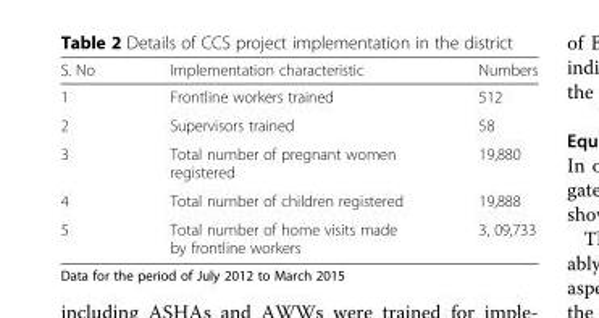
<table><thead><tr><td>S. No</td><td>Implementation characteristic</td><td>Numbers</td></tr></thead><tbody><tr><td>1</td><td>Frontline workers trained</td><td>512</td></tr><tr><td>2</td><td>Supervisors trained</td><td>58</td></tr><tr><td>3</td><td>Total number of pregnant women registered</td><td>19,880</td></tr><tr><td>4</td><td>Total number of children registered</td><td>19,888</td></tr><tr><td>5</td><td>Total number of home visits made by frontline workers</td><td>3, 09,733</td></tr></tbody></table>